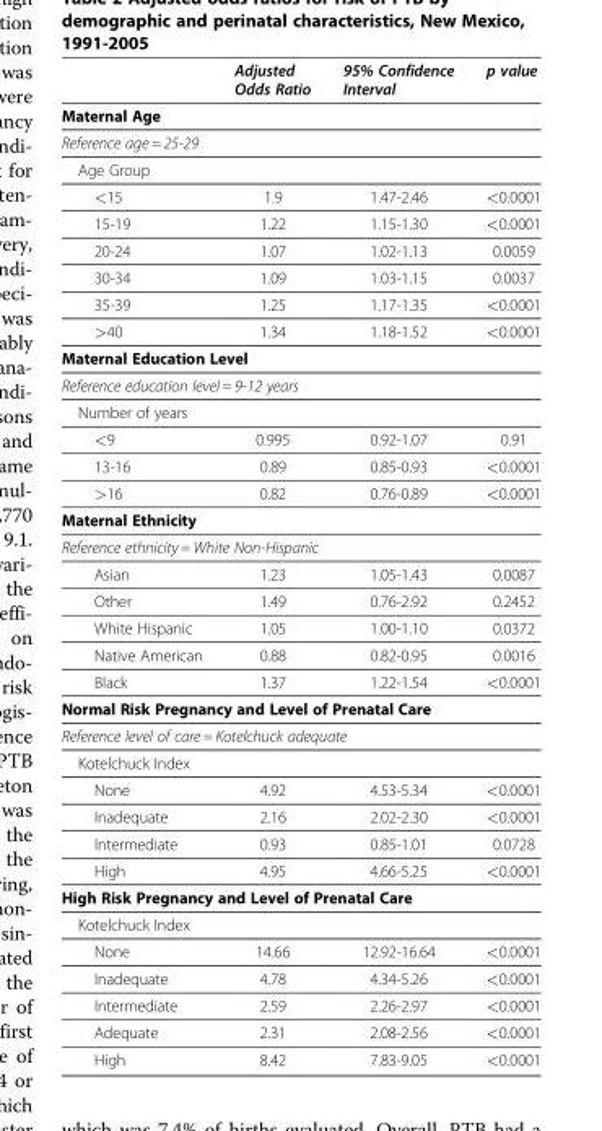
<table><thead><tr><td></td><td>Adjusted Odds Ratio</td><td>95% Confidence Interval</td><td>p value</td></tr></thead><tbody><tr><td colspan="4">Maternal Age</td></tr><tr><td colspan="4">Reference age = 25-29</td></tr><tr><td colspan="4">Age Group</td></tr><tr><td>&lt;15</td><td>1.9</td><td>1.47-2.46</td><td>&lt;0.0001</td></tr><tr><td>15-19</td><td>1.22</td><td>1.15-1.30</td><td>&lt;0.0001</td></tr><tr><td>20-24</td><td>1.07</td><td>1.02-1.13</td><td>0.0059</td></tr><tr><td>30-34</td><td>1.09</td><td>1.03-1.15</td><td>0.0037</td></tr><tr><td>35-39</td><td>1.25</td><td>1.17-1.35</td><td>&lt;0.0001</td></tr><tr><td>&gt;40</td><td>1.34</td><td>1.18-1.52</td><td>&lt;0.0001</td></tr><tr><td colspan="4">Maternal Education Level</td></tr><tr><td colspan="4">Reference education level = 9-12 years</td></tr><tr><td colspan="4">Number of years</td></tr><tr><td>&lt;9</td><td>0.995</td><td>0.92-1.07</td><td>0.91</td></tr><tr><td>13-16</td><td>0.89</td><td>0.85-0.93</td><td>&lt;0.0001</td></tr><tr><td>&gt;16</td><td>0.82</td><td>0.76-0.89</td><td>&lt;0.0001</td></tr><tr><td colspan="4">Maternal Ethnicity</td></tr><tr><td colspan="4">Reference ethnicity = White Non-Hispanic</td></tr><tr><td>Asian</td><td>1.23</td><td>1.05-1.43</td><td>0.0087</td></tr><tr><td>Other</td><td>1.49</td><td>0.76-2.92</td><td>0.2452</td></tr><tr><td>White Hispanic</td><td>1.05</td><td>1.00-1.10</td><td>0.0372</td></tr><tr><td>Native American</td><td>0.88</td><td>0.82-0.95</td><td>0.0016</td></tr><tr><td>Black</td><td>1.37</td><td>1.22-1.54</td><td>&lt;0.0001</td></tr><tr><td colspan="4">Normal Risk Pregnancy and Level of Prenatal Care</td></tr><tr><td colspan="4">Reference level of care = Kotelchuck adequate</td></tr><tr><td colspan="4">Kotelchuck Index</td></tr><tr><td>None</td><td>4.92</td><td>4.53-5.34</td><td>&lt;0.0001</td></tr><tr><td>Inadequate</td><td>2.16</td><td>2.02-2.30</td><td>&lt;0.0001</td></tr><tr><td>Intermediate</td><td>0.93</td><td>0.85-1.01</td><td>0.0728</td></tr><tr><td>High</td><td>4.95</td><td>4.66-5.25</td><td>&lt;0.0001</td></tr><tr><td colspan="4">High Risk Pregnancy and Level of Prenatal Care</td></tr><tr><td colspan="4">Kotelchuck Index</td></tr><tr><td>None</td><td>14.66</td><td>12.92-16.64</td><td>&lt;0.0001</td></tr><tr><td>Inadequate</td><td>4.78</td><td>4.34-5.26</td><td>&lt;0.0001</td></tr><tr><td>Intermediate</td><td>2.59</td><td>2.26-2.97</td><td>&lt;0.0001</td></tr><tr><td>Adequate</td><td>2.31</td><td>2.08-2.56</td><td>&lt;0.0001</td></tr><tr><td>High</td><td>8.42</td><td>7.83-9.05</td><td>&lt;0.0001</td></tr></tbody></table>